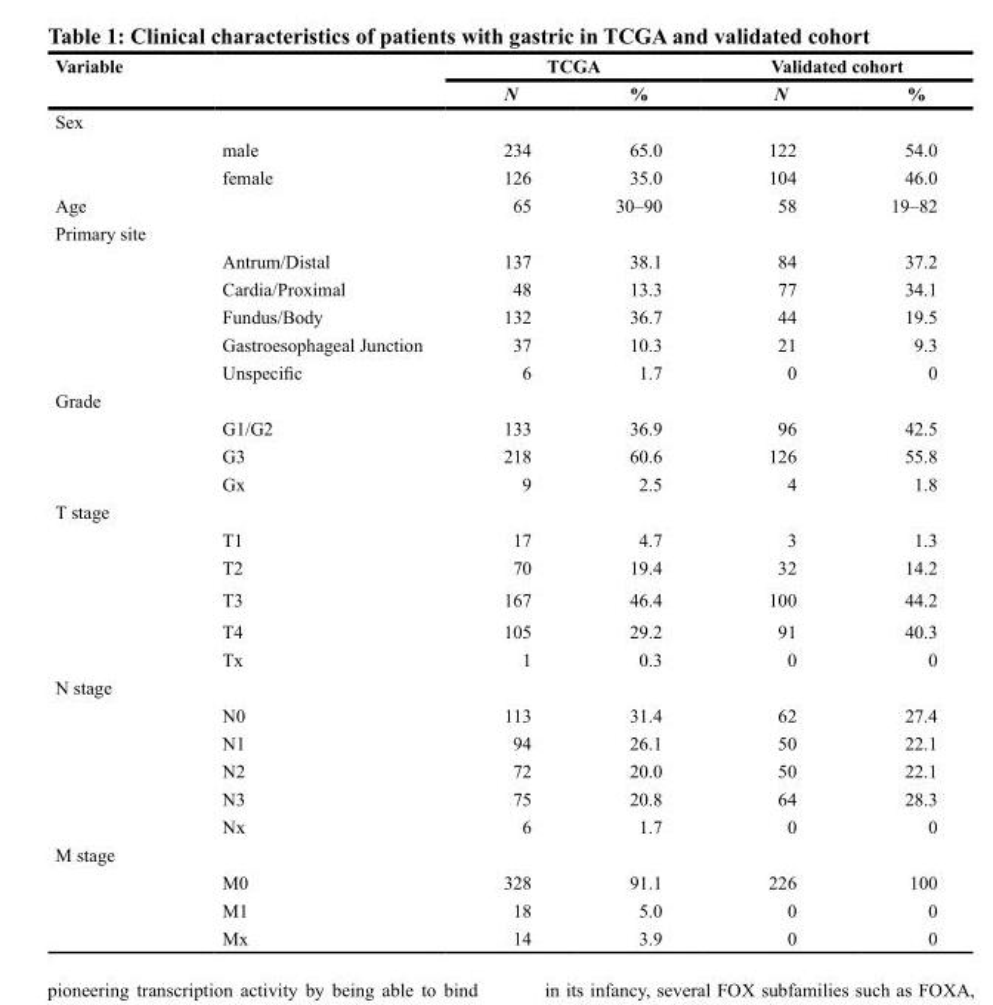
<table><thead><tr><td rowspan="2" colspan="2">Variable</td><td colspan="2">TCGA</td><td colspan="2">Validated cohort</td></tr><tr><td>N</td><td>%</td><td>N</td><td>%</td></tr><tr><td colspan="6">Sex</td></tr><tr><td></td><td>male</td><td>234</td><td>65.0</td><td>122</td><td>54.0</td></tr></thead><tbody><tr><td></td><td>female</td><td>126</td><td>35.0</td><td>104</td><td>46.0</td></tr><tr><td>Age</td><td></td><td>65</td><td>30–90</td><td>58</td><td>19–82</td></tr><tr><td colspan="6">Primary site</td></tr><tr><td></td><td>Antrum/Distal</td><td>137</td><td>38.1</td><td>84</td><td>37.2</td></tr><tr><td></td><td>Cardia/Proximal</td><td>48</td><td>13.3</td><td>77</td><td>34.1</td></tr><tr><td></td><td>Fundus/Body</td><td>132</td><td>36.7</td><td>44</td><td>19.5</td></tr><tr><td></td><td>Gastroesophageal Junction</td><td>37</td><td>10.3</td><td>21</td><td>9.3</td></tr><tr><td></td><td>Unspecific</td><td>6</td><td>1.7</td><td>0</td><td>0</td></tr><tr><td colspan="6">Grade</td></tr><tr><td></td><td>G1/G2</td><td>133</td><td>36.9</td><td>96</td><td>42.5</td></tr><tr><td></td><td>G3</td><td>218</td><td>60.6</td><td>126</td><td>55.8</td></tr><tr><td></td><td>Gx</td><td>9</td><td>2.5</td><td>4</td><td>1.8</td></tr><tr><td colspan="6">T stage</td></tr><tr><td></td><td>T1</td><td>17</td><td>4.7</td><td>3</td><td>1.3</td></tr><tr><td></td><td>T2</td><td>70</td><td>19.4</td><td>32</td><td>14.2</td></tr><tr><td></td><td>T3</td><td>167</td><td>46.4</td><td>100</td><td>44.2</td></tr><tr><td></td><td>T4</td><td>105</td><td>29.2</td><td>91</td><td>40.3</td></tr><tr><td></td><td>Tx</td><td>1</td><td>0.3</td><td>0</td><td>0</td></tr><tr><td colspan="6">N stage</td></tr><tr><td></td><td>N0</td><td>113</td><td>31.4</td><td>62</td><td>27.4</td></tr><tr><td></td><td>N1</td><td>94</td><td>26.1</td><td>50</td><td>22.1</td></tr><tr><td></td><td>N2</td><td>72</td><td>20.0</td><td>50</td><td>22.1</td></tr><tr><td></td><td>N3</td><td>75</td><td>20.8</td><td>64</td><td>28.3</td></tr><tr><td></td><td>Nx</td><td>6</td><td>1.7</td><td>0</td><td>0</td></tr><tr><td colspan="6">M stage</td></tr><tr><td></td><td>M0</td><td>328</td><td>91.1</td><td>226</td><td>100</td></tr><tr><td></td><td>M1</td><td>18</td><td>5.0</td><td>0</td><td>0</td></tr><tr><td></td><td>Mx</td><td>14</td><td>3.9</td><td>0</td><td>0</td></tr></tbody></table>